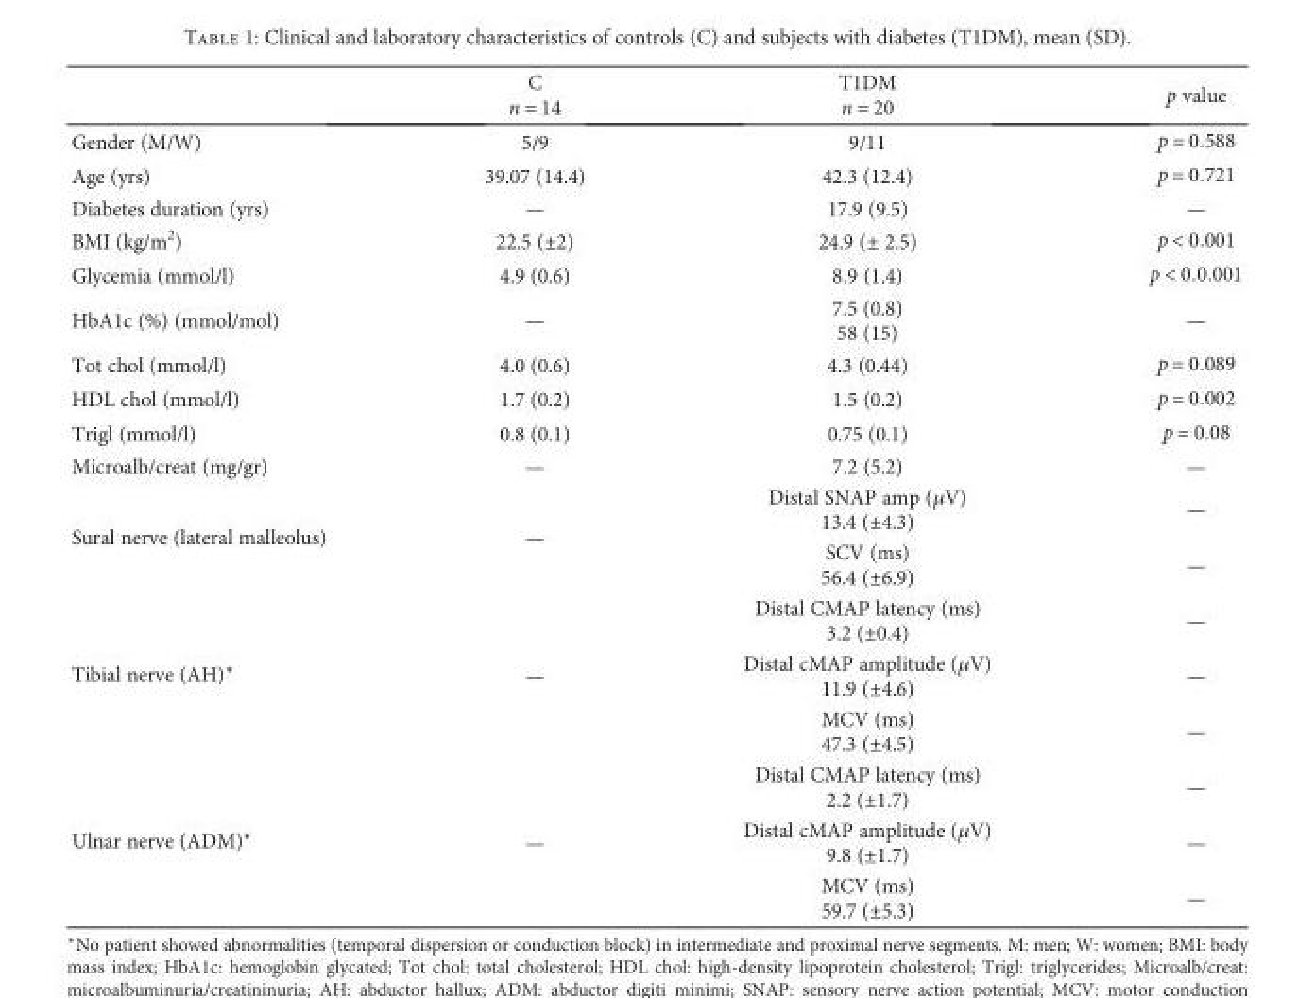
<table><thead><tr><td></td><td>C n = 14</td><td>T1DM n = 20</td><td>p value</td></tr></thead><tbody><tr><td>Gender (M/W)</td><td>5/9</td><td>9/11</td><td>p = 0 588</td></tr><tr><td>Age (yrs)</td><td>39.07 (14.4)</td><td>42.3 (12.4)</td><td>p = 0 721</td></tr><tr><td>Diabetes duration (yrs)</td><td>—</td><td>17.9 (9.5)</td><td>—</td></tr><tr><td>BMI (kg/m<sup>2</sup>)</td><td>22.5 (±2)</td><td>24.9 (± 2.5)</td><td>p &lt; 0 001</td></tr><tr><td>Glycemia (mmol/l)</td><td>4.9 (0.6)</td><td>8.9 (1.4)</td><td>p &lt; 0 0 001</td></tr><tr><td>HbA1c (%) (mmol/mol)</td><td>—</td><td>7.5 (0.8) 58 (15)</td><td>—</td></tr><tr><td>Tot chol (mmol/l)</td><td>4.0 (0.6)</td><td>4.3 (0.44)</td><td>p = 0 089</td></tr><tr><td>HDL chol (mmol/l)</td><td>1.7 (0.2)</td><td>1.5 (0.2)</td><td>p = 0 002</td></tr><tr><td>Trigl (mmol/l)</td><td>0.8 (0.1)</td><td>0.75 (0.1)</td><td>p = 0 08</td></tr><tr><td>Microalb/creat (mg/gr)</td><td>—</td><td>7.2 (5.2)</td><td>—</td></tr><tr><td rowspan="2">Sural nerve (lateral malleolus)</td><td rowspan="2">—</td><td>Distal SNAP amp (μV) 13.4 (±4.3)</td><td>—</td></tr><tr><td>SCV (ms) 56.4 (±6.9)</td><td>—</td></tr><tr><td rowspan="3">Tibial nerve (AH)∗</td><td rowspan="3">—</td><td>Distal CMAP latency (ms) 3.2 (±0.4)</td><td>—</td></tr><tr><td>Distal cMAP amplitude (μV) 11.9 (±4.6)</td><td>—</td></tr><tr><td>MCV (ms) 47.3 (±4.5)</td><td>—</td></tr><tr><td rowspan="3">Ulnar nerve (ADM)∗</td><td rowspan="3">—</td><td>Distal CMAP latency (ms) 2.2 (±1.7)</td><td>—</td></tr><tr><td>Distal cMAP amplitude (μV) 9.8 (±1.7)</td><td>—</td></tr><tr><td>MCV (ms) 59.7 (±5.3)</td><td>—</td></tr></tbody></table>